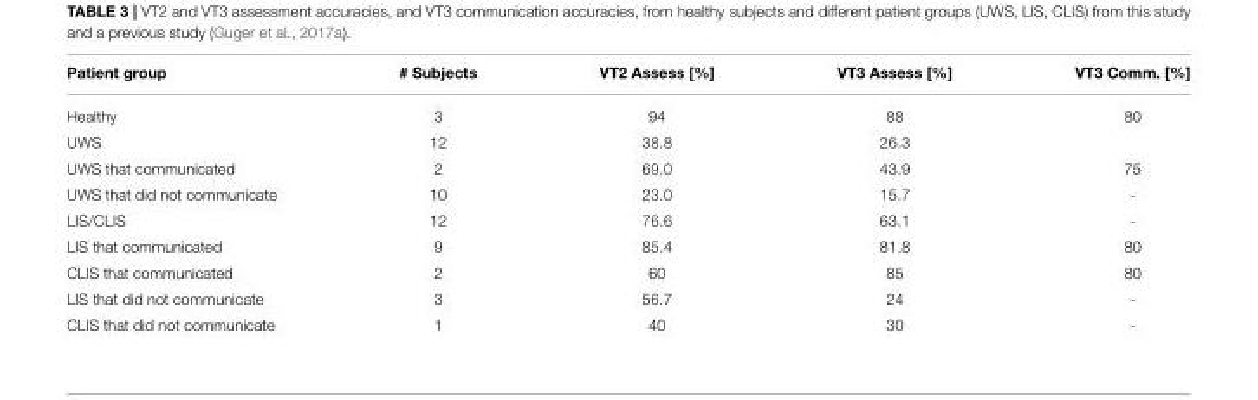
<table><thead><tr><td>Patient group</td><td># Subjects</td><td>VT2 Assess [%]</td><td>VT3 Assess [%]</td><td>VT3 Comm. [%]</td></tr></thead><tbody><tr><td>Healthy</td><td>3</td><td>94</td><td>88</td><td>80</td></tr><tr><td>UWS</td><td>12</td><td>38.8</td><td>26.3</td><td></td></tr><tr><td>UWS that communicated</td><td>2</td><td>69.0</td><td>43.9</td><td>75</td></tr><tr><td>UWS that did not communicate</td><td>10</td><td>23.0</td><td>15.7</td><td>-</td></tr><tr><td>LIS/CLIS</td><td>12</td><td>76.6</td><td>63.1</td><td>-</td></tr><tr><td>LIS that communicated</td><td>9</td><td>85.4</td><td>81.8</td><td>80</td></tr><tr><td>CLIS that communicated</td><td>2</td><td>60</td><td>85</td><td>80</td></tr><tr><td>LIS that did not communicate</td><td>3</td><td>56.7</td><td>24</td><td>-</td></tr><tr><td>CLIS that did not communicate</td><td>1</td><td>40</td><td>30</td><td>-</td></tr></tbody></table>